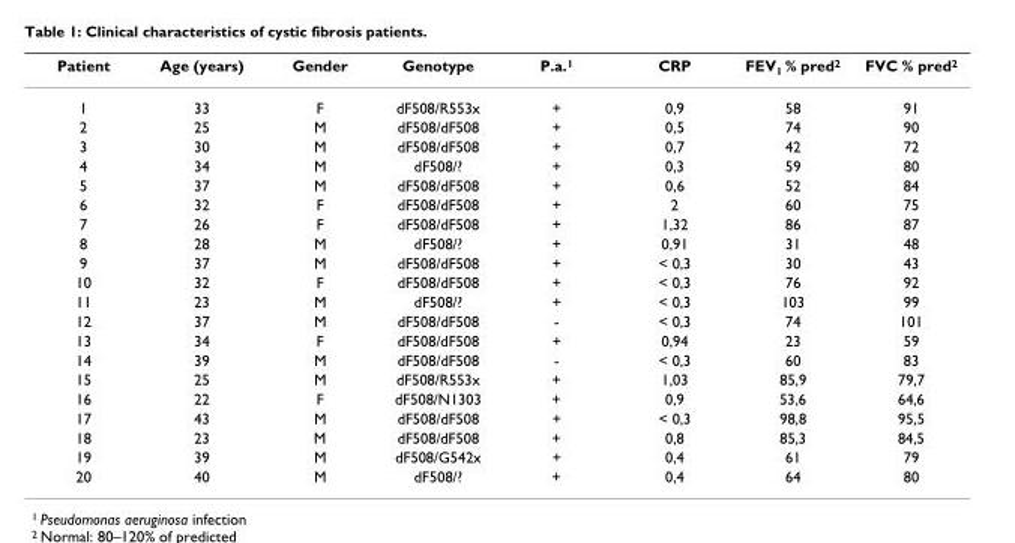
<table><thead><tr><td>Patient</td><td>Age (years)</td><td>Gender</td><td>Genotype</td><td>P.a.<sup>1</sup></td><td>CRP</td><td>FEV<sub>1</sub> % pred<sup>2</sup></td><td>FVC % pred<sup>2</sup></td></tr></thead><tbody><tr><td>1</td><td>33</td><td>F</td><td>dF508/R553x</td><td>+</td><td>0,9</td><td>58</td><td>91</td></tr><tr><td>2</td><td>25</td><td>M</td><td>dF508/dF508</td><td>+</td><td>0,5</td><td>74</td><td>90</td></tr><tr><td>3</td><td>30</td><td>M</td><td>dF508/dF508</td><td>+</td><td>0,7</td><td>42</td><td>72</td></tr><tr><td>4</td><td>34</td><td>M</td><td>dF508/?</td><td>+</td><td>0,3</td><td>59</td><td>80</td></tr><tr><td>5</td><td>37</td><td>M</td><td>dF508/dF508</td><td>+</td><td>0,6</td><td>52</td><td>84</td></tr><tr><td>6</td><td>32</td><td>F</td><td>dF508/dF508</td><td>+</td><td>2</td><td>60</td><td>75</td></tr><tr><td>7</td><td>26</td><td>F</td><td>dF508/dF508</td><td>+</td><td>1,32</td><td>86</td><td>87</td></tr><tr><td>8</td><td>28</td><td>M</td><td>dF508/?</td><td>+</td><td>0,91</td><td>31</td><td>48</td></tr><tr><td>9</td><td>37</td><td>M</td><td>dF508/dF508</td><td>+</td><td>&lt; 0,3</td><td>30</td><td>43</td></tr><tr><td>10</td><td>32</td><td>F</td><td>dF508/dF508</td><td>+</td><td>&lt; 0,3</td><td>76</td><td>92</td></tr><tr><td>11</td><td>23</td><td>M</td><td>dF508/?</td><td>+</td><td>&lt; 0,3</td><td>103</td><td>99</td></tr><tr><td>12</td><td>37</td><td>M</td><td>dF508/dF508</td><td>-</td><td>&lt; 0,3</td><td>74</td><td>101</td></tr><tr><td>13</td><td>34</td><td>F</td><td>dF508/dF508</td><td>+</td><td>0,94</td><td>23</td><td>59</td></tr><tr><td>14</td><td>39</td><td>M</td><td>dF508/dF508</td><td>-</td><td>&lt; 0,3</td><td>60</td><td>83</td></tr><tr><td>15</td><td>25</td><td>M</td><td>dF508/R553x</td><td>+</td><td>1,03</td><td>85,9</td><td>79,7</td></tr><tr><td>16</td><td>22</td><td>F</td><td>dF508/N1303</td><td>+</td><td>0,9</td><td>53,6</td><td>64,6</td></tr><tr><td>17</td><td>43</td><td>M</td><td>dF508/dF508</td><td>+</td><td>&lt; 0,3</td><td>98,8</td><td>95,5</td></tr><tr><td>18</td><td>23</td><td>M</td><td>dF508/dF508</td><td>+</td><td>0,8</td><td>85,3</td><td>84,5</td></tr><tr><td>19</td><td>39</td><td>M</td><td>dF508/G542x</td><td>+</td><td>0,4</td><td>61</td><td>79</td></tr><tr><td>20</td><td>40</td><td>M</td><td>dF508/?</td><td>+</td><td>0,4</td><td>64</td><td>80</td></tr></tbody></table>